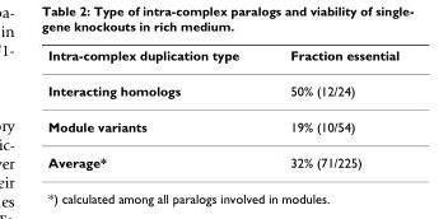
<table><thead><tr><td>Intra-complex duplication type</td><td>Fraction essential</td></tr></thead><tbody><tr><td>Interacting homologs</td><td>50% (12/24)</td></tr><tr><td>Module variants</td><td>19% (10/54)</td></tr><tr><td>Average*</td><td>32% (71/225)</td></tr></tbody></table>